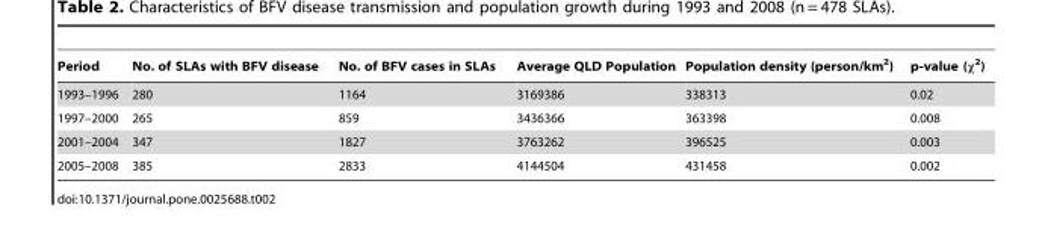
<table><thead><tr><td>Period</td><td>No. of SLAs with BFV disease</td><td>No. of BFV cases in SLAs</td><td>Average QLD Population</td><td>Population density (person/km<sup>2</sup>)</td><td>p-value (χ<sup>2</sup>)</td></tr></thead><tbody><tr><td>1993–1996</td><td>280</td><td>1164</td><td>3169386</td><td>338313</td><td>0.02</td></tr><tr><td>1997–2000</td><td>265</td><td>859</td><td>3436366</td><td>363398</td><td>0.008</td></tr><tr><td>2001–2004</td><td>347</td><td>1827</td><td>3763262</td><td>396525</td><td>0.003</td></tr><tr><td>2005–2008</td><td>385</td><td>2833</td><td>4144504</td><td>431458</td><td>0.002</td></tr></tbody></table>